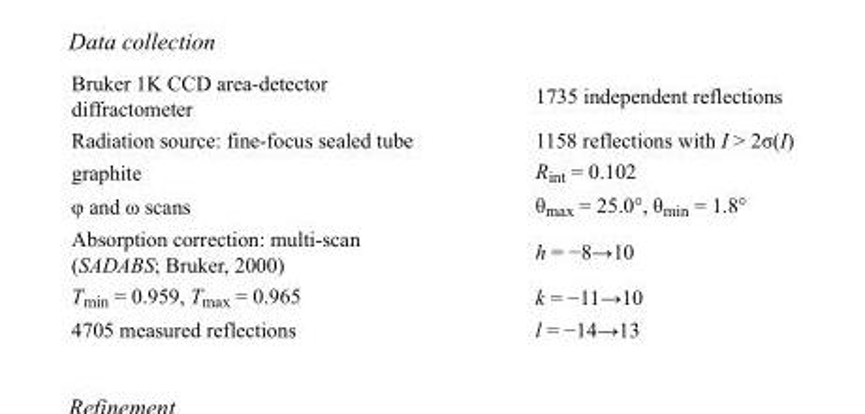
<table><tbody><tr><td>Bruker 1K CCD area-detector diffractometer</td><td>1735 independent reflections</td></tr><tr><td>Radiation source: fine-focus sealed tube</td><td>1158 reflections with I &gt; 2σ(I)</td></tr><tr><td>graphite</td><td>R<sub>int</sub> = 0.102</td></tr><tr><td>φ and ω scans</td><td>θ<sub>max</sub> = 25.0°, θ<sub>min</sub> = 1.8°</td></tr><tr><td>Absorption correction: multi-scan (SADABS; Bruker, 2000)</td><td>h = −8→10</td></tr><tr><td>T<sub>min</sub> = 0.959, T<sub>max</sub> = 0.965</td><td>k = −11→10</td></tr><tr><td>4705 measured reflections</td><td>l = −14→13</td></tr></tbody></table>